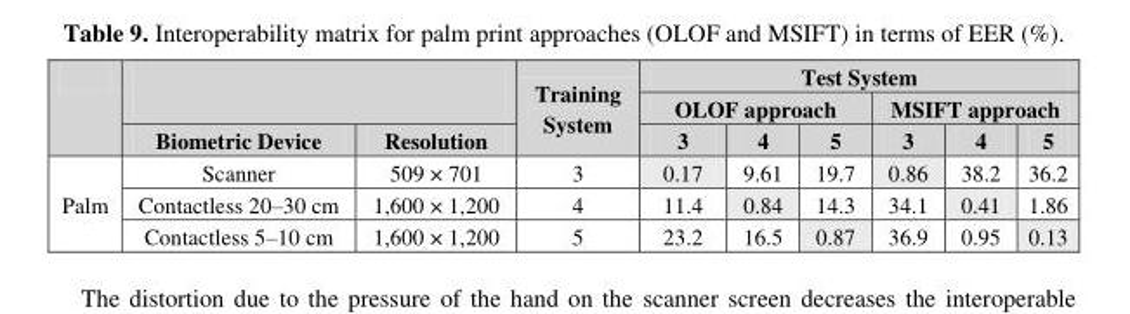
<table><thead><tr><td rowspan="3"></td><td rowspan="3">Biometric Device</td><td rowspan="3">Resolution</td><td rowspan="3">Training System</td><td colspan="6">Test System</td></tr><tr><td colspan="3">OLOF approach</td><td colspan="3">MSIFT approach</td></tr><tr><td>3</td><td>4</td><td>5</td><td>3</td><td>4</td><td>5</td></tr></thead><tbody><tr><td rowspan="3">Palm</td><td>Scanner</td><td>509 × 701</td><td>3</td><td>0.17</td><td>9.61</td><td>19.7</td><td>0.86</td><td>38.2</td><td>36.2</td></tr><tr><td>Contactless 20–30 cm</td><td>1,600 × 1,200</td><td>4</td><td>11.4</td><td>0.84</td><td>14.3</td><td>34.1</td><td>0.41</td><td>1.86</td></tr><tr><td>Contactless 5–10 cm</td><td>1,600 × 1,200</td><td>5</td><td>23.2</td><td>16.5</td><td>0.87</td><td>36.9</td><td>0.95</td><td>0.13</td></tr></tbody></table>